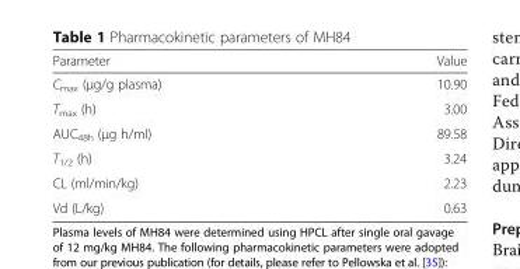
<table><thead><tr><td>Parameter</td><td>Value</td></tr></thead><tbody><tr><td>C<sub>max</sub> (μg/g plasma)</td><td>10.90</td></tr><tr><td>T<sub>max</sub> (h)</td><td>3.00</td></tr><tr><td>AUC<sub>48h</sub> (μg h/ml)</td><td>89.58</td></tr><tr><td>T<sub>1/2</sub> (h)</td><td>3.24</td></tr><tr><td>CL (ml/min/kg)</td><td>2.23</td></tr><tr><td>Vd (L/kg)</td><td>0.63</td></tr></tbody></table>